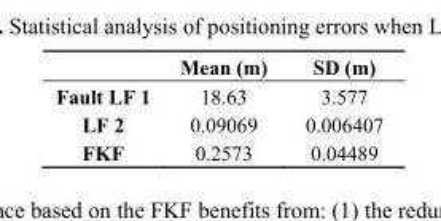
<table><thead><tr><td></td><td>Mean (m)</td><td>SD (m)</td></tr></thead><tbody><tr><td>Fault LF 1</td><td>18.63</td><td>3.577</td></tr><tr><td>LF 2</td><td>0.09069</td><td>0.006407</td></tr><tr><td>FKF</td><td>0.2573</td><td>0.04489</td></tr></tbody></table>